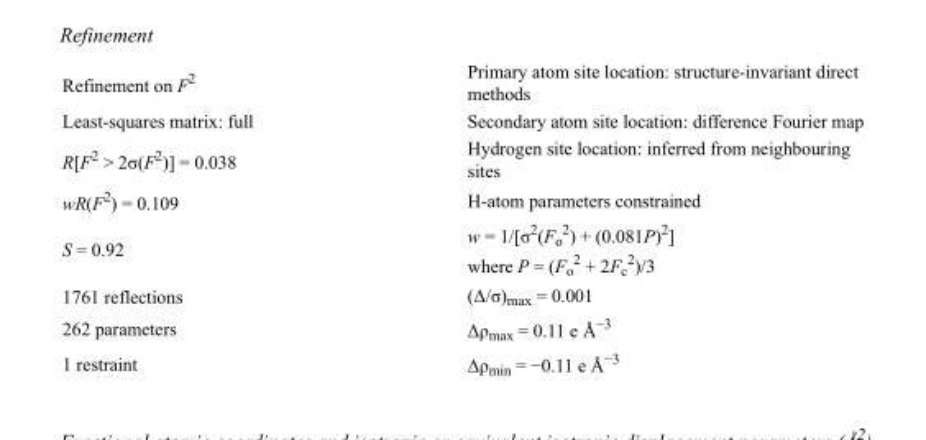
<table><tbody><tr><td>Refinement on F<sup>2</sup></td><td>Primary atom site location: structure-invariant direct methods</td></tr><tr><td>Least-squares matrix: full</td><td>Secondary atom site location: difference Fourier map</td></tr><tr><td>R[F<sup>2</sup> &gt; 2σ(F<sup>2</sup>)] = 0.038</td><td>Hydrogen site location: inferred from neighbouring sites</td></tr><tr><td>wR(F<sup>2</sup>) = 0.109</td><td>H-atom parameters constrained</td></tr><tr><td>S = 0.92</td><td>w = 1/[σ<sup>2</sup>(F<sub>o</sub> <sup>2</sup>) + (0.081P)<sup>2</sup>] where P = (F<sub>o</sub> <sup>2</sup> + 2F<sub>c</sub> <sup>2</sup>)/3</td></tr><tr><td>1761 reflections</td><td>(Δ/σ)<sub>max</sub> = 0.001</td></tr><tr><td>262 parameters</td><td>Δρ<sub>max</sub> = 0.11 e Å<sup>−3</sup></td></tr><tr><td>1 restraint</td><td>Δρ<sub>min</sub> = −0.11 e Å<sup>−3</sup></td></tr></tbody></table>